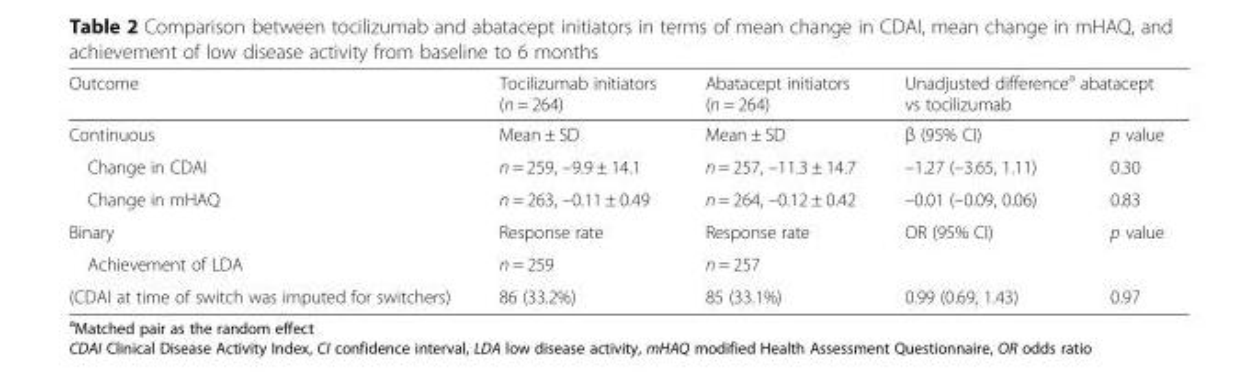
<table><thead><tr><td rowspan="2">Outcome Continuous</td><td rowspan="2">Tocilizumab initiators (n = 264) Mean ± SD</td><td rowspan="2">Abatacept initiators (n = 264) Mean ± SD</td><td colspan="2">Unadjusted difference<sup>a</sup> abatacept vs tocilizumab</td></tr><tr><td>β (95% CI)</td><td>p value</td></tr></thead><tbody><tr><td>Change in CDAI</td><td>n = 259, –9.9 ± 14.1</td><td>n = 257, –11.3 ± 14.7</td><td>–1.27 (–3.65, 1.11)</td><td>0.30</td></tr><tr><td>Change in mHAQ</td><td>n = 263, –0.11 ± 0.49</td><td>n = 264, –0.12 ± 0.42</td><td>–0.01 (–0.09, 0.06)</td><td>0.83</td></tr><tr><td>Binary</td><td>Response rate</td><td>Response rate</td><td>OR (95% CI)</td><td>p value</td></tr><tr><td>Achievement of LDA</td><td>n = 259</td><td>n = 257</td><td></td><td></td></tr><tr><td>(CDAI at time of switch was imputed for switchers)</td><td>86 (33.2%)</td><td>85 (33.1%)</td><td>0.99 (0.69, 1.43)</td><td>0.97</td></tr></tbody></table>